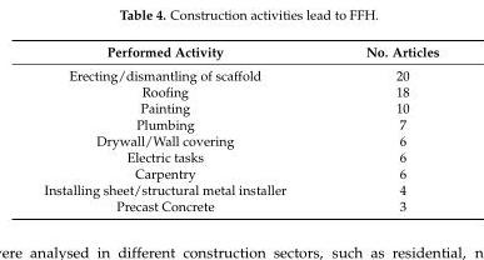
<table><thead><tr><td>Performed Activity</td><td>No. Articles</td></tr></thead><tbody><tr><td>Erecting/dismantling of scaffold</td><td>20</td></tr><tr><td>Roofing</td><td>18</td></tr><tr><td>Painting</td><td>10</td></tr><tr><td>Plumbing</td><td>7</td></tr><tr><td>Drywall/Wall covering</td><td>6</td></tr><tr><td>Electric tasks</td><td>6</td></tr><tr><td>Carpentry</td><td>6</td></tr><tr><td>Installing sheet/structural metal installer</td><td>4</td></tr><tr><td>Precast Concrete</td><td>3</td></tr></tbody></table>